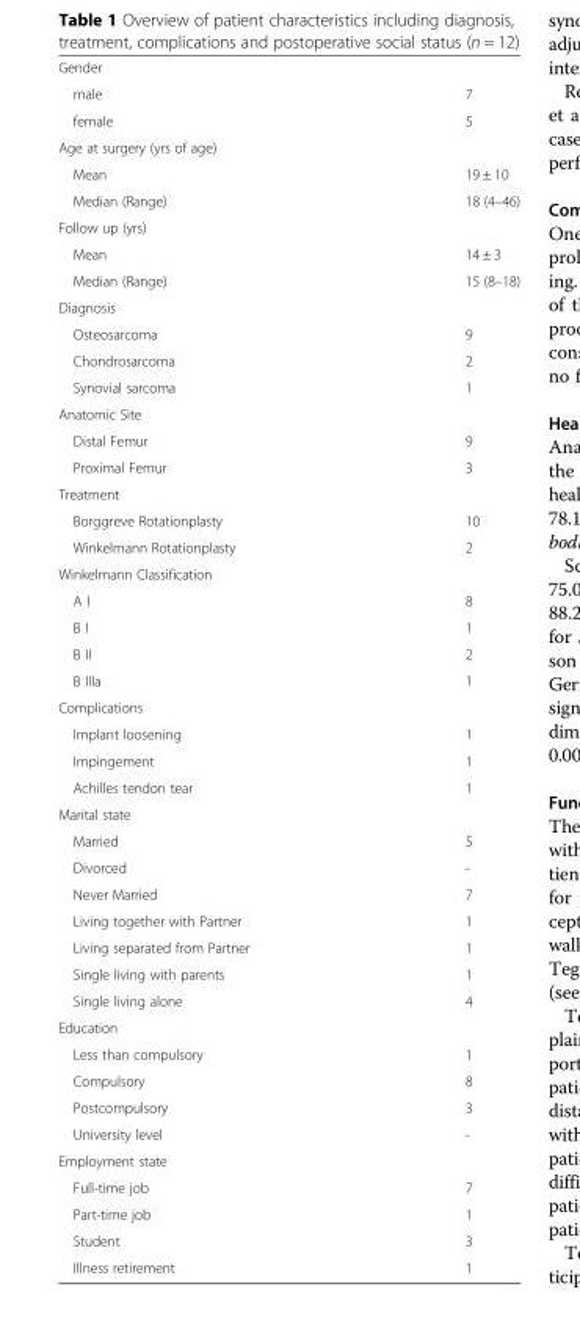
<table><tbody><tr><td colspan="2">Gender</td></tr><tr><td>male</td><td>7</td></tr><tr><td>female</td><td>5</td></tr><tr><td colspan="2">Age at surgery (yrs of age)</td></tr><tr><td>Mean</td><td>19 ± 10</td></tr><tr><td>Median (Range)</td><td>18 (4–46)</td></tr><tr><td colspan="2">Follow up (yrs)</td></tr><tr><td>Mean</td><td>14 ± 3</td></tr><tr><td>Median (Range)</td><td>15 (8–18)</td></tr><tr><td colspan="2">Diagnosis</td></tr><tr><td>Osteosarcoma</td><td>9</td></tr><tr><td>Chondrosarcoma</td><td>2</td></tr><tr><td>Synovial sarcoma</td><td>1</td></tr><tr><td colspan="2">Anatomic Site</td></tr><tr><td>Distal Femur</td><td>9</td></tr><tr><td>Proximal Femur</td><td>3</td></tr><tr><td colspan="2">Treatment</td></tr><tr><td>Borggreve Rotationplasty</td><td>10</td></tr><tr><td>Winkelmann Rotationplasty</td><td>2</td></tr><tr><td colspan="2">Winkelmann Classification</td></tr><tr><td>A I</td><td>8</td></tr><tr><td>B I</td><td>1</td></tr><tr><td>B II</td><td>2</td></tr><tr><td>B IIIa</td><td>1</td></tr><tr><td colspan="2">Complications</td></tr><tr><td>Implant loosening</td><td>1</td></tr><tr><td>Impingement</td><td>1</td></tr><tr><td>Achilles tendon tear</td><td>1</td></tr><tr><td colspan="2">Marital state</td></tr><tr><td>Married</td><td>5</td></tr><tr><td>Divorced</td><td>-</td></tr><tr><td>Never Married</td><td>7</td></tr><tr><td>Living together with Partner</td><td>1</td></tr><tr><td>Living separated from Partner</td><td>1</td></tr><tr><td>Single living with parents</td><td>1</td></tr><tr><td>Single living alone</td><td>4</td></tr><tr><td colspan="2">Education</td></tr><tr><td>Less than compulsory</td><td>1</td></tr><tr><td>Compulsory</td><td>8</td></tr><tr><td>Postcompulsory</td><td>3</td></tr><tr><td>University level</td><td>-</td></tr><tr><td colspan="2">Employment state</td></tr><tr><td>Full-time job</td><td>7</td></tr><tr><td>Part-time job</td><td>1</td></tr><tr><td>Student</td><td>3</td></tr><tr><td>Illness retirement</td><td>1</td></tr></tbody></table>